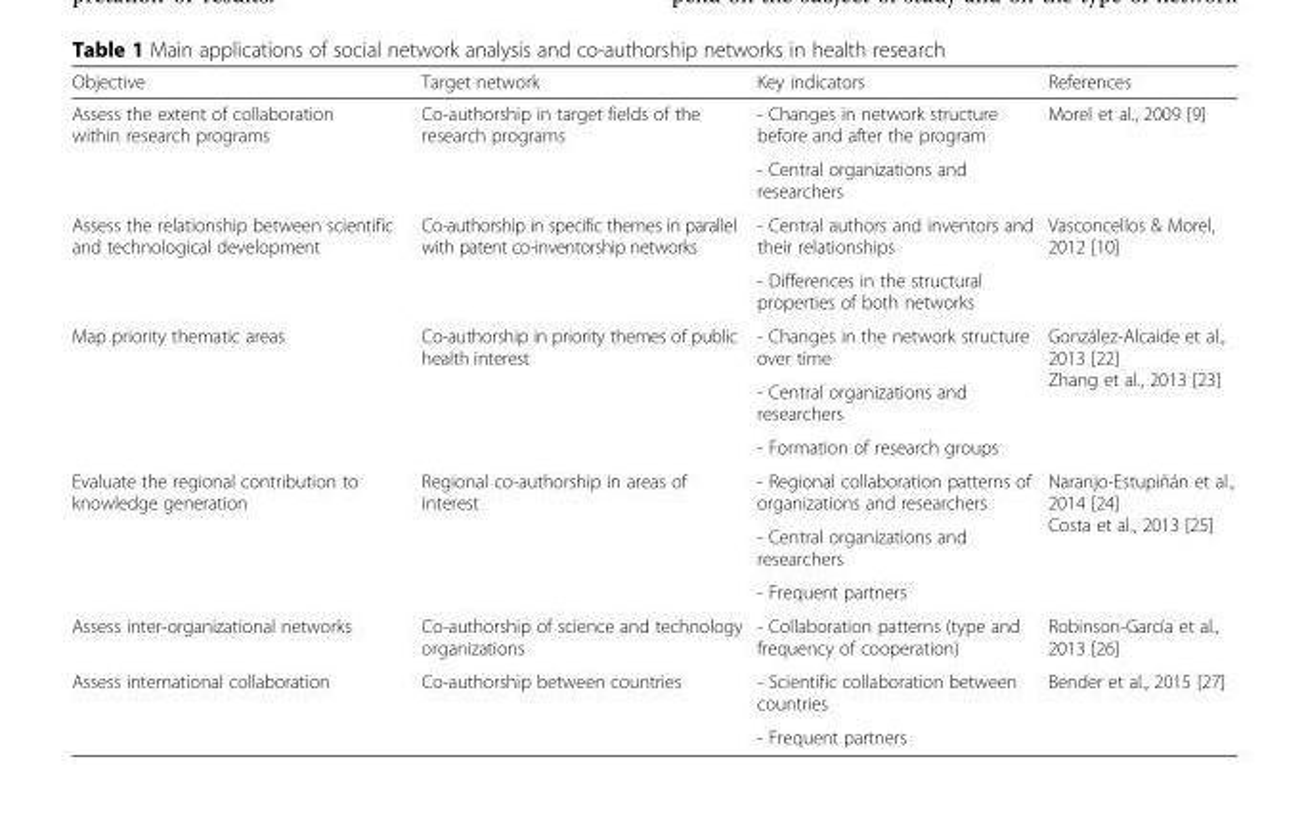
<table><thead><tr><td>Objective</td><td>Target network</td><td>Key indicators</td><td>References</td></tr></thead><tbody><tr><td rowspan="2">Assess the extent of collaboration within research programs</td><td rowspan="2">Co-authorship in target fields of the research programs</td><td>- Changes in network structure before and after the program</td><td rowspan="2">Morel et al., 2009 [9]</td></tr><tr><td>- Central organizations and researchers</td></tr><tr><td rowspan="2">Assess the relationship between scientific and technological development</td><td rowspan="2">Co-authorship in specific themes in parallel with patent co-inventorship networks</td><td>- Central authors and inventors and their relationships</td><td rowspan="2">Vasconcellos &amp; Morel, 2012 [10]</td></tr><tr><td>- Differences in the structural properties of both networks</td></tr><tr><td rowspan="3">Map priority thematic areas</td><td rowspan="3">Co-authorship in priority themes of public health interest</td><td>- Changes in the network structure over time</td><td rowspan="3">González-Alcaide et al., 2013 [22] Zhang et al., 2013 [23]</td></tr><tr><td>- Central organizations and researchers</td></tr><tr><td>- Formation of research groups</td></tr><tr><td rowspan="3">Evaluate the regional contribution to knowledge generation</td><td rowspan="3">Regional co-authorship in areas of interest</td><td>- Regional collaboration patterns of organizations and researchers</td><td rowspan="3">Naranjo-Estupiñán et al., 2014 [24] Costa et al., 2013 [25]</td></tr><tr><td>- Central organizations and researchers</td></tr><tr><td>- Frequent partners</td></tr><tr><td>Assess inter-organizational networks</td><td>Co-authorship of science and technology organizations</td><td>- Collaboration patterns (type and frequency of cooperation)</td><td>Robinson-García et al., 2013 [26]</td></tr><tr><td rowspan="2">Assess international collaboration</td><td rowspan="2">Co-authorship between countries</td><td>- Scientific collaboration between countries</td><td rowspan="2">Bender et al., 2015 [27]</td></tr><tr><td>- Frequent partners</td></tr></tbody></table>